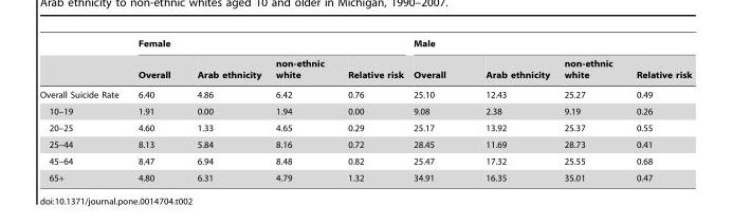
<table><thead><tr><td rowspan="2"></td><td colspan="4">Female</td><td colspan="4">Male</td></tr><tr><td>Overall</td><td>Arab ethnicity</td><td>non-ethnic white</td><td>Relative risk</td><td>Overall</td><td>Arab ethnicity</td><td>non-ethnic white</td><td>Relative risk</td></tr></thead><tbody><tr><td>Overall Suicide Rate</td><td>6.40</td><td>4.86</td><td>6.42</td><td>0.76</td><td>25.10</td><td>12.43</td><td>25.27</td><td>0.49</td></tr><tr><td>10–19</td><td>1.91</td><td>0.00</td><td>1.94</td><td>0.00</td><td>9.08</td><td>2.38</td><td>9.19</td><td>0.26</td></tr><tr><td>20–25</td><td>4.60</td><td>1.33</td><td>4.65</td><td>0.29</td><td>25.17</td><td>13.92</td><td>25.37</td><td>0.55</td></tr><tr><td>25–44</td><td>8.13</td><td>5.84</td><td>8.16</td><td>0.72</td><td>28.45</td><td>11.69</td><td>28.73</td><td>0.41</td></tr><tr><td>45–64</td><td>8.47</td><td>6.94</td><td>8.48</td><td>0.82</td><td>25.47</td><td>17.32</td><td>25.55</td><td>0.68</td></tr><tr><td>65+</td><td>4.80</td><td>6.31</td><td>4.79</td><td>1.32</td><td>34.91</td><td>16.35</td><td>35.01</td><td>0.47</td></tr></tbody></table>